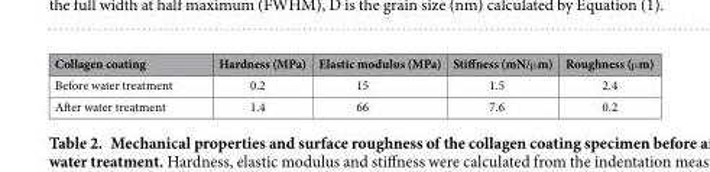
<table><thead><tr><td>Collagen coating</td><td>Hardness (MPa)</td><td>Elastic modulus (MPa)</td><td>Stiffness (mN/μ m)</td><td>Roughness (μ m)</td></tr></thead><tbody><tr><td>Before water treatment</td><td>0.2</td><td>15</td><td>1.5</td><td>2.4</td></tr><tr><td>After water treatment</td><td>1.4</td><td>66</td><td>7.6</td><td>0.2</td></tr></tbody></table>